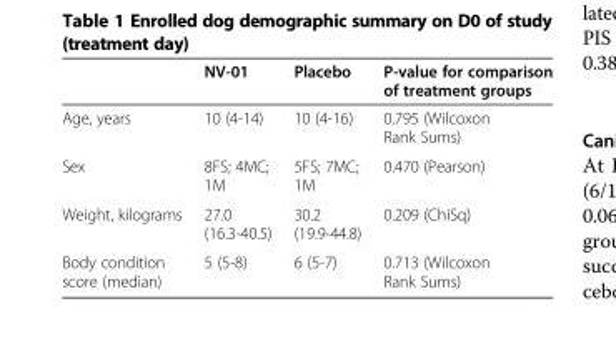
<table><thead><tr><td></td><td>NV-01</td><td>Placebo</td><td>P-value for comparison of treatment groups</td></tr></thead><tbody><tr><td>Age, years</td><td>10 (4-14)</td><td>10 (4-16)</td><td>0.795 (Wilcoxon Rank Sums)</td></tr><tr><td>Sex</td><td>8FS; 4MC; 1M</td><td>5FS; 7MC; 1M</td><td>0.470 (Pearson)</td></tr><tr><td>Weight, kilograms</td><td>27.0 (16.3-40.5)</td><td>30.2 (19.9-44.8)</td><td>0.209 (ChiSq)</td></tr><tr><td>Body condition score (median)</td><td>5 (5-8)</td><td>6 (5-7)</td><td>0.713 (Wilcoxon Rank Sums)</td></tr></tbody></table>